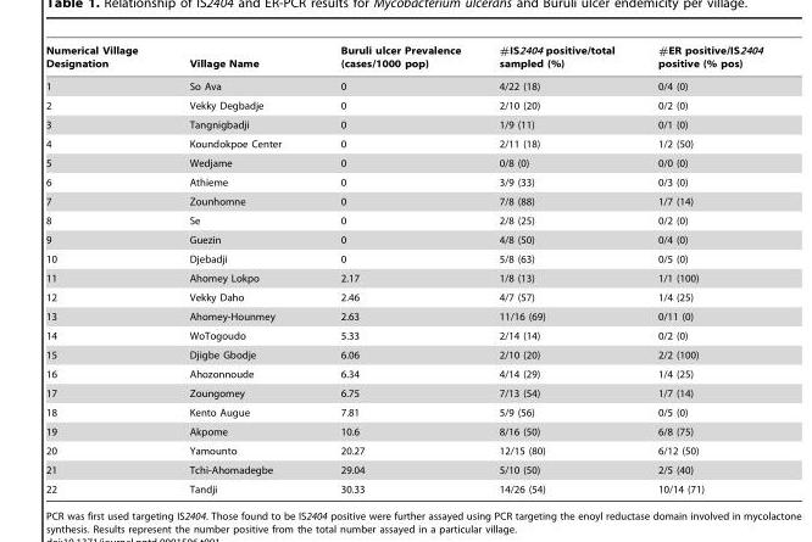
<table><thead><tr><td>Numerical Village Designation</td><td>Village Name</td><td>Buruli ulcer Prevalence (cases/1000 pop)</td><td>#IS2404 positive/total sampled (%)</td><td>#ER positive/IS2404 positive (% pos)</td></tr></thead><tbody><tr><td>1</td><td>So Ava</td><td>0</td><td>4/22 (18)</td><td>0/4 (0)</td></tr><tr><td>2</td><td>Vekky Degbadje</td><td>0</td><td>2/10 (20)</td><td>0/2 (0)</td></tr><tr><td>3</td><td>Tangnigbadji</td><td>0</td><td>1/9 (11)</td><td>0/1 (0)</td></tr><tr><td>4</td><td>Koundokpoe Center</td><td>0</td><td>2/11 (18)</td><td>1/2 (50)</td></tr><tr><td>5</td><td>Wedjame</td><td>0</td><td>0/8 (0)</td><td>0/0 (0)</td></tr><tr><td>6</td><td>Athieme</td><td>0</td><td>3/9 (33)</td><td>0/3 (0)</td></tr><tr><td>7</td><td>Zounhomne</td><td>0</td><td>7/8 (88)</td><td>1/7 (14)</td></tr><tr><td>8</td><td>Se</td><td>0</td><td>2/8 (25)</td><td>0/2 (0)</td></tr><tr><td>9</td><td>Guezin</td><td>0</td><td>4/8 (50)</td><td>0/4 (0)</td></tr><tr><td>10</td><td>Djebadji</td><td>0</td><td>5/8 (63)</td><td>0/5 (0)</td></tr><tr><td>11</td><td>Ahomey Lokpo</td><td>2.17</td><td>1/8 (13)</td><td>1/1 (100)</td></tr><tr><td>12</td><td>Vekky Daho</td><td>2.46</td><td>4/7 (57)</td><td>1/4 (25)</td></tr><tr><td>13</td><td>Ahomey-Hounmey</td><td>2.63</td><td>11/16 (69)</td><td>0/11 (0)</td></tr><tr><td>14</td><td>WoTogoudo</td><td>5.33</td><td>2/14 (14)</td><td>0/2 (0)</td></tr><tr><td>15</td><td>Djigbe Gbodje</td><td>6.06</td><td>2/10 (20)</td><td>2/2 (100)</td></tr><tr><td>16</td><td>Ahozonnoude</td><td>6.34</td><td>4/14 (29)</td><td>1/4 (25)</td></tr><tr><td>17</td><td>Zoungomey</td><td>6.75</td><td>7/13 (54)</td><td>1/7 (14)</td></tr><tr><td>18</td><td>Kento Augue</td><td>7.81</td><td>5/9 (56)</td><td>0/5 (0)</td></tr><tr><td>19</td><td>Akpome</td><td>10.6</td><td>8/16 (50)</td><td>6/8 (75)</td></tr><tr><td>20</td><td>Yamounto</td><td>20.27</td><td>12/15 (80)</td><td>6/12 (50)</td></tr><tr><td>21</td><td>Tchi-Ahomadegbe</td><td>29.04</td><td>5/10 (50)</td><td>2/5 (40)</td></tr><tr><td>22</td><td>Tandji</td><td>30.33</td><td>14/26 (54)</td><td>10/14 (71)</td></tr></tbody></table>